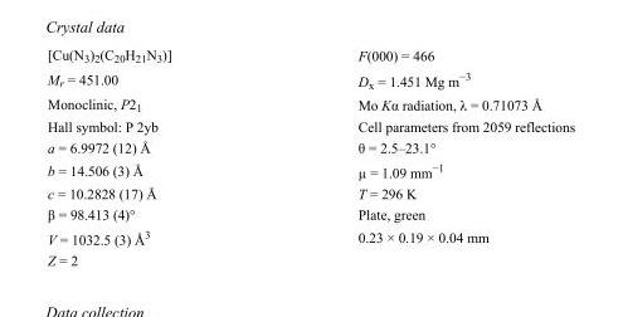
<table><tbody><tr><td>[Cu(N<sub>3</sub>)<sub>2</sub>(C<sub>20</sub>H<sub>21</sub>N<sub>3</sub>)]</td><td>F(000) = 466</td></tr><tr><td>M<sub>r</sub> = 451.00</td><td>D<sub>x</sub> = 1.451 Mg m<sup>−3</sup></td></tr><tr><td>Monoclinic, P2<sub>1</sub></td><td>Mo Kα radiation, λ = 0.71073 Å</td></tr><tr><td>Hall symbol: P 2yb</td><td>Cell parameters from 2059 reflections</td></tr><tr><td>a = 6.9972 (12) Å</td><td>θ = 2.5–23.1°</td></tr><tr><td>b = 14.506 (3) Å</td><td>µ = 1.09 mm<sup>−1</sup></td></tr><tr><td>c = 10.2828 (17) Å</td><td>T = 296 K</td></tr><tr><td>β = 98.413 (4)°</td><td>Plate, green</td></tr><tr><td>V = 1032.5 (3) Å<sup>3</sup></td><td>0.23 × 0.19 × 0.04 mm</td></tr><tr><td>Z = 2</td><td></td></tr></tbody></table>